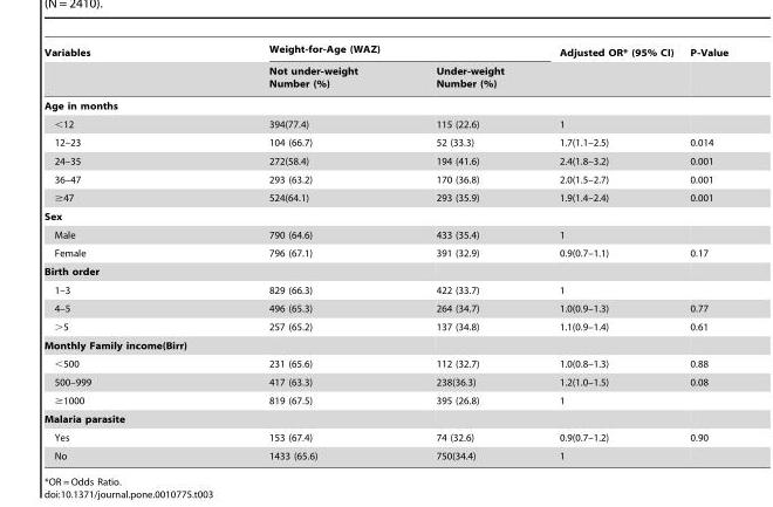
<table><thead><tr><td rowspan="2">Variables</td><td colspan="2">Weight-for-Age (WAZ)</td><td rowspan="2">Adjusted OR* (95% CI)</td><td rowspan="2">P-Value</td></tr><tr><td>Not under-weight Number (%)</td><td>Under-weight Number (%)</td></tr></thead><tbody><tr><td colspan="5">Age in months</td></tr><tr><td>&lt;12</td><td>394(77.4)</td><td>115 (22.6)</td><td>1</td><td></td></tr><tr><td>12–23</td><td>104 (66.7)</td><td>52 (33.3)</td><td>1.7(1.1–2.5)</td><td>0.014</td></tr><tr><td>24–35</td><td>272(58.4)</td><td>194 (41.6)</td><td>2.4(1.8–3.2)</td><td>0.001</td></tr><tr><td>36–47</td><td>293 (63.2)</td><td>170 (36.8)</td><td>2.0(1.5–2.7)</td><td>0.001</td></tr><tr><td>≥47</td><td>524(64.1)</td><td>293 (35.9)</td><td>1.9(1.4–2.4)</td><td>0.001</td></tr><tr><td colspan="5">Sex</td></tr><tr><td>Male</td><td>790 (64.6)</td><td>433 (35.4)</td><td>1</td><td></td></tr><tr><td>Female</td><td>796 (67.1)</td><td>391 (32.9)</td><td>0.9(0.7–1.1)</td><td>0.17</td></tr><tr><td colspan="5">Birth order</td></tr><tr><td>1–3</td><td>829 (66.3)</td><td>422 (33.7)</td><td>1</td><td></td></tr><tr><td>4–5</td><td>496 (65.3)</td><td>264 (34.7)</td><td>1.0(0.9–1.3)</td><td>0.77</td></tr><tr><td>&gt;5</td><td>257 (65.2)</td><td>137 (34.8)</td><td>1.1(0.9–1.4)</td><td>0.61</td></tr><tr><td colspan="5">Monthly Family income(Birr)</td></tr><tr><td>&lt;500</td><td>231 (65.6)</td><td>112 (32.7)</td><td>1.0(0.8–1.3)</td><td>0.88</td></tr><tr><td>500–999</td><td>417 (63.3)</td><td>238(36.3)</td><td>1.2(1.0–1.5)</td><td>0.08</td></tr><tr><td>≥1000</td><td>819 (67.5)</td><td>395 (26.8)</td><td>1</td><td></td></tr><tr><td colspan="5">Malaria parasite</td></tr><tr><td>Yes</td><td>153 (67.4)</td><td>74 (32.6)</td><td>0.9(0.7–1.2)</td><td>0.90</td></tr><tr><td>No</td><td>1433 (65.6)</td><td>750(34.4)</td><td>1</td><td></td></tr></tbody></table>